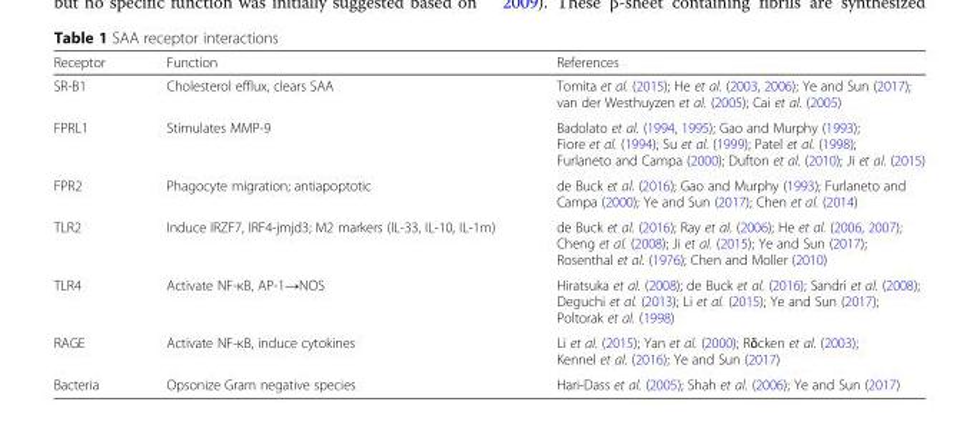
<table><thead><tr><td>Receptor</td><td>Function</td><td>References</td></tr></thead><tbody><tr><td>SR-B1</td><td>Cholesterol efflux, clears SAA</td><td>Tomita et al. (2015); He et al. (2003, 2006); Ye and Sun (2017); van der Westhuyzen et al. (2005); Cai et al. (2005)</td></tr><tr><td>FPRL1</td><td>Stimulates MMP-9</td><td>Badolato et al. (1994, 1995); Gao and Murphy (1993); Fiore et al. (1994); Su et al. (1999); Patel et al. (1998); Furlaneto and Campa (2000); Dufton et al. (2010); Ji et al. (2015)</td></tr><tr><td>FPR2</td><td>Phagocyte migration; antiapoptotic</td><td>de Buck et al. (2016); Gao and Murphy (1993); Furlaneto and Campa (2000); Ye and Sun (2017); Chen et al. (2014)</td></tr><tr><td>TLR2</td><td>Induce IRZF7, IRF4-jmjd3; M2 markers (IL-33, IL-10, IL-1m)</td><td>de Buck et al. (2016); Ray et al. (2006); He et al. (2006, 2007); Cheng et al. (2008); Ji et al. (2015); Ye and Sun (2017); Rosenthal et al. (1976); Chen and Moller (2010)</td></tr><tr><td>TLR4</td><td>Activate NF-κB, AP-1→NOS</td><td>Hiratsuka et al. (2008); de Buck et al. (2016); Sandri et al. (2008); Deguchi et al. (2013); Li et al. (2015); Ye and Sun (2017); Poltorak et al. (1998)</td></tr><tr><td>RAGE</td><td>Activate NF-κB, induce cytokines</td><td>Li et al. (2015); Yan et al. (2000); Rὄcken et al. (2003); Kennel et al. (2016); Ye and Sun (2017)</td></tr><tr><td>Bacteria</td><td>Opsonize Gram negative species</td><td>Hari-Dass et al. (2005); Shah et al. (2006); Ye and Sun (2017)</td></tr></tbody></table>